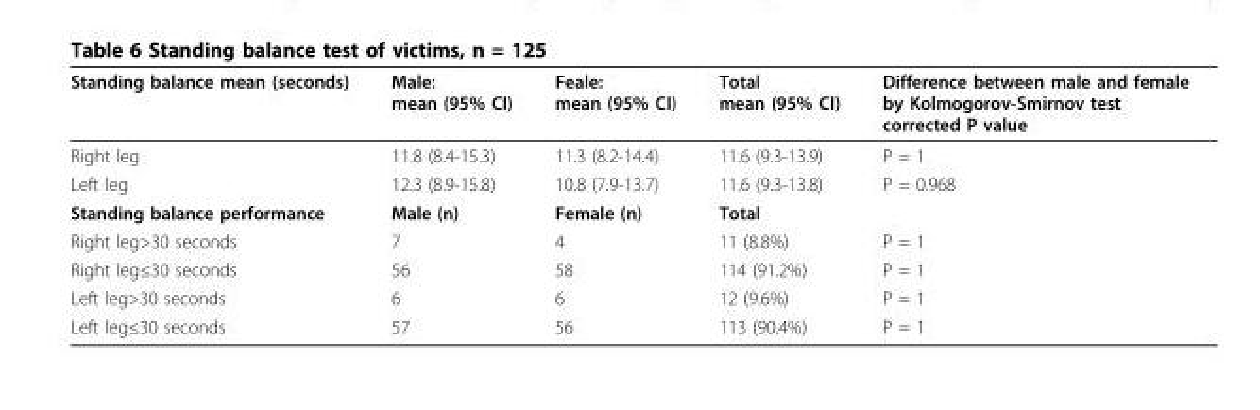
<table><thead><tr><td>Standing balance mean (seconds)</td><td>Male: mean (95% CI)</td><td>Feale: mean (95% CI)</td><td>Total mean (95% CI)</td><td>Difference between male and female by Kolmogorov-Smirnov test corrected P value</td></tr></thead><tbody><tr><td>Right leg</td><td>11.8 (8.4-15.3)</td><td>11.3 (8.2-14.4)</td><td>11.6 (9.3-13.9)</td><td>P = 1</td></tr><tr><td>Left leg</td><td>12.3 (8.9-15.8)</td><td>10.8 (7.9-13.7)</td><td>11.6 (9.3-13.8)</td><td>P = 0.968</td></tr><tr><td>Standing balance performance</td><td>Male (n)</td><td>Female (n)</td><td>Total</td><td></td></tr><tr><td>Right leg&gt;30 seconds</td><td>7</td><td>4</td><td>11 (8.8%)</td><td>P = 1</td></tr><tr><td>Right leg≤30 seconds</td><td>56</td><td>58</td><td>114 (91.2%)</td><td>P = 1</td></tr><tr><td>Left leg&gt;30 seconds</td><td>6</td><td>6</td><td>12 (9.6%)</td><td>P = 1</td></tr><tr><td>Left leg≤30 seconds</td><td>57</td><td>56</td><td>113 (90.4%)</td><td>P = 1</td></tr></tbody></table>